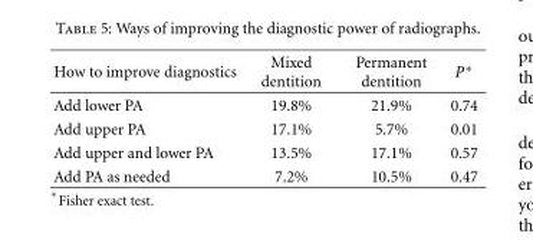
<table><thead><tr><td>How to improve diagnostics</td><td>Mixed dentition</td><td>Permanent dentition</td><td>P∗</td></tr></thead><tbody><tr><td>Add lower PA</td><td>19.8%</td><td>21.9%</td><td>0.74</td></tr><tr><td>Add upper PA</td><td>17.1%</td><td>5.7%</td><td>0.01</td></tr><tr><td>Add upper and lower PA</td><td>13.5%</td><td>17.1%</td><td>0.57</td></tr><tr><td>Add PA as needed</td><td>7.2%</td><td>10.5%</td><td>0.47</td></tr></tbody></table>